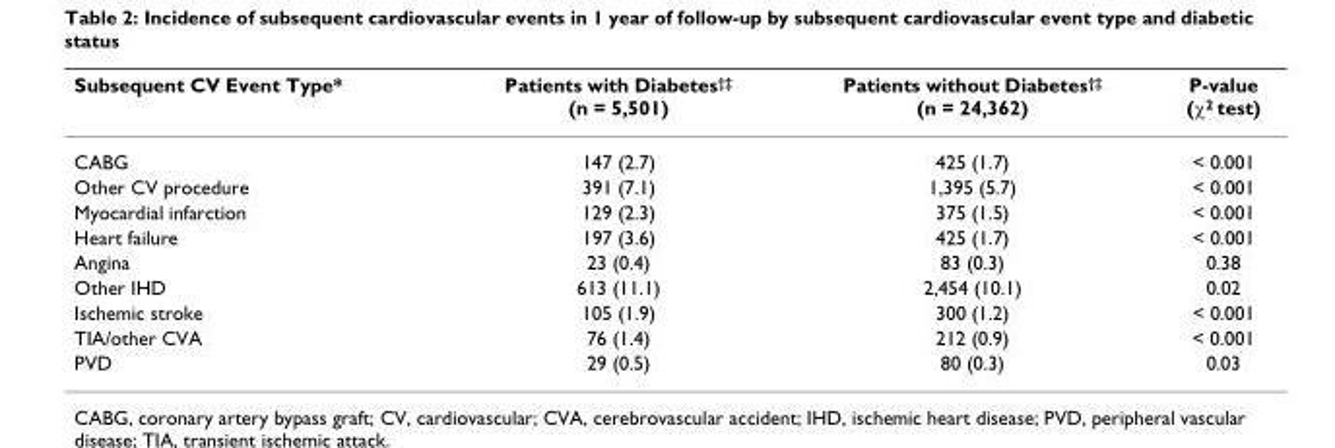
<table><thead><tr><td>Subsequent CV Event Type*</td><td>Patients with Diabetes<sup>†‡</sup> (n = 5,501)</td><td>Patients without Diabetes<sup>†‡</sup> (n = 24,362)</td><td>P-value (χ<sup>2</sup> test)</td></tr></thead><tbody><tr><td>CABG</td><td>147 (2.7)</td><td>425 (1.7)</td><td>&lt; 0.001</td></tr><tr><td>Other CV procedure</td><td>391 (7.1)</td><td>1,395 (5.7)</td><td>&lt; 0.001</td></tr><tr><td>Myocardial infarction</td><td>129 (2.3)</td><td>375 (1.5)</td><td>&lt; 0.001</td></tr><tr><td>Heart failure</td><td>197 (3.6)</td><td>425 (1.7)</td><td>&lt; 0.001</td></tr><tr><td>Angina</td><td>23 (0.4)</td><td>83 (0.3)</td><td>0.38</td></tr><tr><td>Other IHD</td><td>613 (11.1)</td><td>2,454 (10.1)</td><td>0.02</td></tr><tr><td>Ischemic stroke</td><td>105 (1.9)</td><td>300 (1.2)</td><td>&lt; 0.001</td></tr><tr><td>TIA/other CVA</td><td>76 (1.4)</td><td>212 (0.9)</td><td>&lt; 0.001</td></tr><tr><td>PVD</td><td>29 (0.5)</td><td>80 (0.3)</td><td>0.03</td></tr></tbody></table>